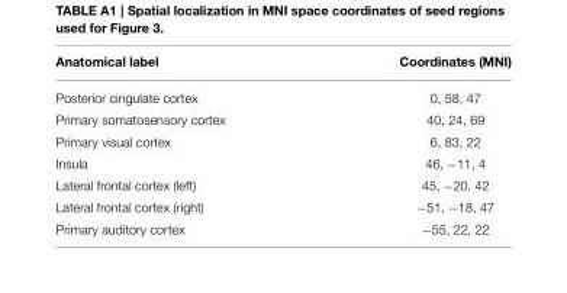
<table><thead><tr><td>Anatomical label</td><td>Coordinates (MNI)</td></tr></thead><tbody><tr><td>Posterior cingulate cortex</td><td>0, 58, 47</td></tr><tr><td>Primary somatosensory cortex</td><td>40, 24, 69</td></tr><tr><td>Primary visual cortex</td><td>6, 83, 22</td></tr><tr><td>Insula</td><td>46, −11, 4</td></tr><tr><td>Lateral frontal cortex (left)</td><td>45, −20, 42</td></tr><tr><td>Lateral frontal cortex (right)</td><td>−51, −18, 47</td></tr><tr><td>Primary auditory cortex</td><td>−55, 22, 22</td></tr></tbody></table>